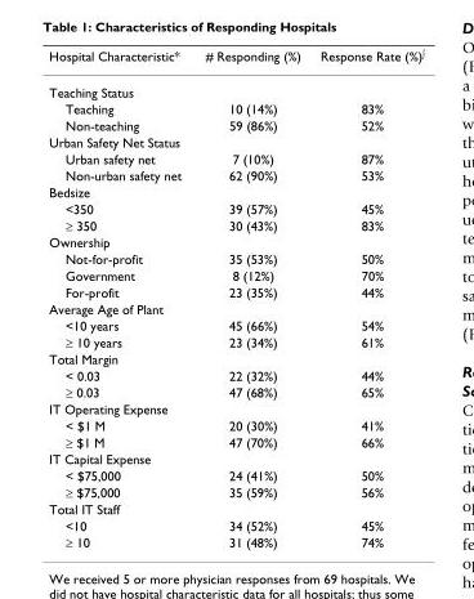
<table><thead><tr><td>Hospital Characteristic*</td><td># Responding (%)</td><td>Response Rate (%)<sup>∫</sup></td></tr></thead><tbody><tr><td colspan="3">Teaching Status</td></tr><tr><td>Teaching</td><td>10 (14%)</td><td>83%</td></tr><tr><td>Non-teaching</td><td>59 (86%)</td><td>52%</td></tr><tr><td colspan="3">Urban Safety Net Status</td></tr><tr><td>Urban safety net</td><td>7 (10%)</td><td>87%</td></tr><tr><td>Non-urban safety net</td><td>62 (90%)</td><td>53%</td></tr><tr><td colspan="3">Bedsize</td></tr><tr><td>&lt;350</td><td>39 (57%)</td><td>45%</td></tr><tr><td>≥ 350</td><td>30 (43%)</td><td>83%</td></tr><tr><td colspan="3">Ownership</td></tr><tr><td>Not-for-profit</td><td>35 (53%)</td><td>50%</td></tr><tr><td>Government</td><td>8 (12%)</td><td>70%</td></tr><tr><td>For-profit</td><td>23 (35%)</td><td>44%</td></tr><tr><td colspan="3">Average Age of Plant</td></tr><tr><td>&lt;10 years</td><td>45 (66%)</td><td>54%</td></tr><tr><td>≥ 10 years</td><td>23 (34%)</td><td>61%</td></tr><tr><td colspan="3">Total Margin</td></tr><tr><td>&lt; 0.03</td><td>22 (32%)</td><td>44%</td></tr><tr><td>≥ 0.03</td><td>47 (68%)</td><td>65%</td></tr><tr><td colspan="3">IT Operating Expense</td></tr><tr><td>&lt; $1 M</td><td>20 (30%)</td><td>41%</td></tr><tr><td>≥ $1 M</td><td>47 (70%)</td><td>66%</td></tr><tr><td colspan="3">IT Capital Expense</td></tr><tr><td>&lt; $75,000</td><td>24 (41%)</td><td>50%</td></tr><tr><td>≥ $75,000</td><td>35 (59%)</td><td>56%</td></tr><tr><td colspan="3">Total IT Staff</td></tr><tr><td>&lt;10</td><td>34 (52%)</td><td>45%</td></tr><tr><td>≥ 10</td><td>31 (48%)</td><td>74%</td></tr></tbody></table>